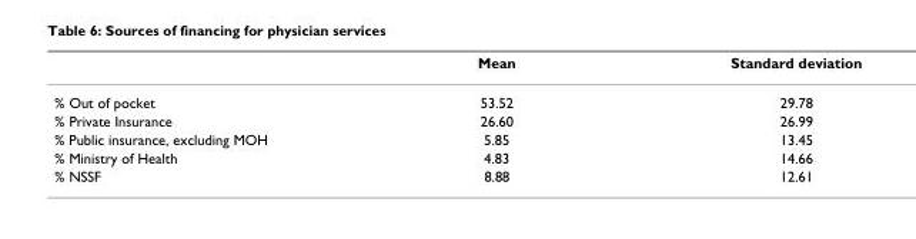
<table><thead><tr><td></td><td>Mean</td><td>Standard deviation</td></tr></thead><tbody><tr><td>% Out of pocket</td><td>53.52</td><td>29.78</td></tr><tr><td>% Private Insurance</td><td>26.60</td><td>26.99</td></tr><tr><td>% Public insurance, excluding MOH</td><td>5.85</td><td>13.45</td></tr><tr><td>% Ministry of Health</td><td>4.83</td><td>14.66</td></tr><tr><td>% NSSF</td><td>8.88</td><td>12.61</td></tr></tbody></table>